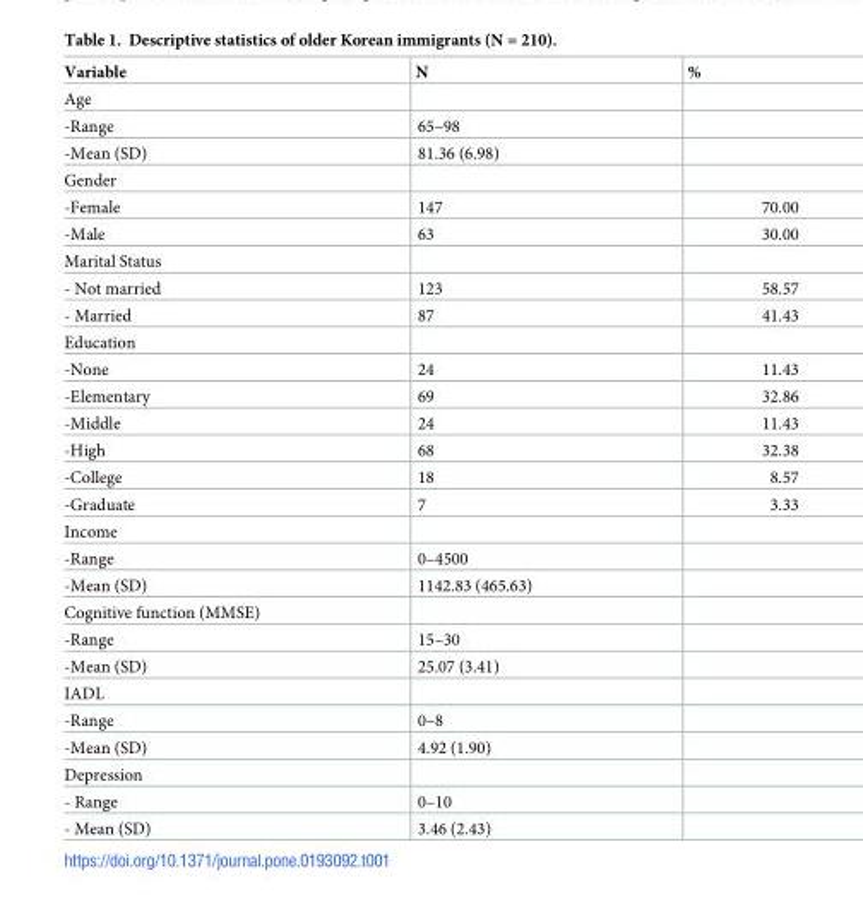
<table><thead><tr><td>Variable</td><td>N</td><td>%</td></tr></thead><tbody><tr><td colspan="3">Age</td></tr><tr><td>-Range</td><td>65–98</td><td></td></tr><tr><td>-Mean (SD)</td><td>81.36 (6.98)</td><td></td></tr><tr><td colspan="3">Gender</td></tr><tr><td>-Female</td><td>147</td><td>70.00</td></tr><tr><td>-Male</td><td>63</td><td>30.00</td></tr><tr><td colspan="3">Marital Status</td></tr><tr><td>- Not married</td><td>123</td><td>58.57</td></tr><tr><td>- Married</td><td>87</td><td>41.43</td></tr><tr><td colspan="3">Education</td></tr><tr><td>-None</td><td>24</td><td>11.43</td></tr><tr><td>-Elementary</td><td>69</td><td>32.86</td></tr><tr><td>-Middle</td><td>24</td><td>11.43</td></tr><tr><td>-High</td><td>68</td><td>32.38</td></tr><tr><td>-College</td><td>18</td><td>8.57</td></tr><tr><td>-Graduate</td><td>7</td><td>3.33</td></tr><tr><td colspan="3">Income</td></tr><tr><td>-Range</td><td>0–4500</td><td></td></tr><tr><td>-Mean (SD)</td><td>1142.83 (465.63)</td><td></td></tr><tr><td colspan="3">Cognitive function (MMSE)</td></tr><tr><td>-Range</td><td>15–30</td><td></td></tr><tr><td>-Mean (SD)</td><td>25.07 (3.41)</td><td></td></tr><tr><td colspan="3">IADL</td></tr><tr><td>-Range</td><td>0–8</td><td></td></tr><tr><td>-Mean (SD)</td><td>4.92 (1.90)</td><td></td></tr><tr><td colspan="3">Depression</td></tr><tr><td>- Range</td><td>0–10</td><td></td></tr><tr><td>- Mean (SD)</td><td>3.46 (2.43)</td><td></td></tr></tbody></table>